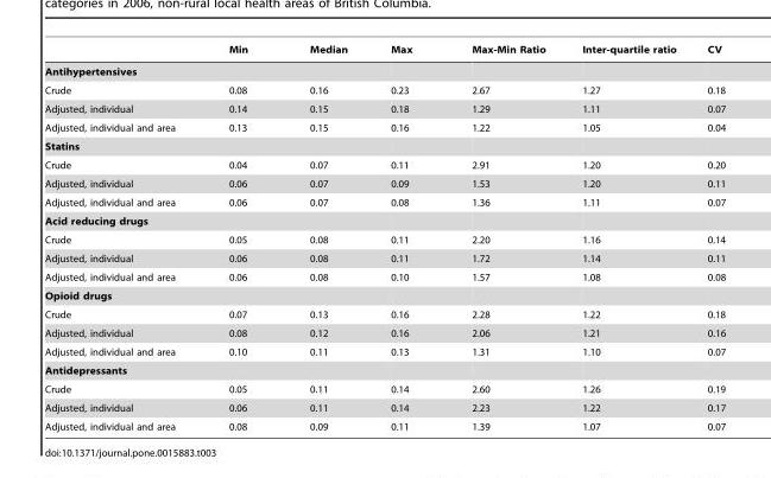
<table><thead><tr><td></td><td>Min</td><td>Median</td><td>Max</td><td>Max-Min Ratio</td><td>Inter-quartile ratio</td><td>CV</td></tr></thead><tbody><tr><td colspan="7">Antihypertensives</td></tr><tr><td>Crude</td><td>0.08</td><td>0.16</td><td>0.23</td><td>2.67</td><td>1.27</td><td>0.18</td></tr><tr><td>Adjusted, individual</td><td>0.14</td><td>0.15</td><td>0.18</td><td>1.29</td><td>1.11</td><td>0.07</td></tr><tr><td>Adjusted, individual and area</td><td>0.13</td><td>0.15</td><td>0.16</td><td>1.22</td><td>1.05</td><td>0.04</td></tr><tr><td colspan="7">Statins</td></tr><tr><td>Crude</td><td>0.04</td><td>0.07</td><td>0.11</td><td>2.91</td><td>1.20</td><td>0.20</td></tr><tr><td>Adjusted, individual</td><td>0.06</td><td>0.07</td><td>0.09</td><td>1.53</td><td>1.20</td><td>0.11</td></tr><tr><td>Adjusted, individual and area</td><td>0.06</td><td>0.07</td><td>0.08</td><td>1.36</td><td>1.11</td><td>0.07</td></tr><tr><td colspan="7">Acid reducing drugs</td></tr><tr><td>Crude</td><td>0.05</td><td>0.08</td><td>0.11</td><td>2.20</td><td>1.16</td><td>0.14</td></tr><tr><td>Adjusted, individual</td><td>0.06</td><td>0.08</td><td>0.11</td><td>1.72</td><td>1.14</td><td>0.11</td></tr><tr><td>Adjusted, individual and area</td><td>0.06</td><td>0.08</td><td>0.10</td><td>1.57</td><td>1.08</td><td>0.08</td></tr><tr><td colspan="7">Opioid drugs</td></tr><tr><td>Crude</td><td>0.07</td><td>0.13</td><td>0.16</td><td>2.28</td><td>1.22</td><td>0.18</td></tr><tr><td>Adjusted, individual</td><td>0.08</td><td>0.12</td><td>0.16</td><td>2.06</td><td>1.21</td><td>0.16</td></tr><tr><td>Adjusted, individual and area</td><td>0.10</td><td>0.11</td><td>0.13</td><td>1.31</td><td>1.10</td><td>0.07</td></tr><tr><td colspan="7">Antidepressants</td></tr><tr><td>Crude</td><td>0.05</td><td>0.11</td><td>0.14</td><td>2.60</td><td>1.26</td><td>0.19</td></tr><tr><td>Adjusted, individual</td><td>0.06</td><td>0.11</td><td>0.14</td><td>2.23</td><td>1.22</td><td>0.17</td></tr><tr><td>Adjusted, individual and area</td><td>0.08</td><td>0.09</td><td>0.11</td><td>1.39</td><td>1.07</td><td>0.07</td></tr></tbody></table>